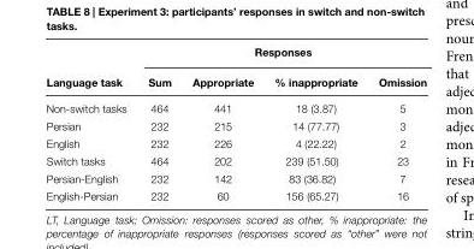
<table><thead><tr><td rowspan="2">Language task</td><td colspan="4">Responses</td></tr><tr><td>Sum</td><td>Appropriate</td><td>% inappropriate</td><td>Omission</td></tr></thead><tbody><tr><td>Non-switch tasks</td><td>464</td><td>441</td><td>18 (3.87)</td><td>5</td></tr><tr><td>Persian</td><td>232</td><td>215</td><td>14 (77.77)</td><td>3</td></tr><tr><td>English</td><td>232</td><td>226</td><td>4 (22.22)</td><td>2</td></tr><tr><td>Switch tasks</td><td>464</td><td>202</td><td>239 (51.50)</td><td>23</td></tr><tr><td>Persian-English</td><td>232</td><td>142</td><td>83 (36.82)</td><td>7</td></tr><tr><td>English-Persian</td><td>232</td><td>60</td><td>156 (65.27)</td><td>16</td></tr></tbody></table>